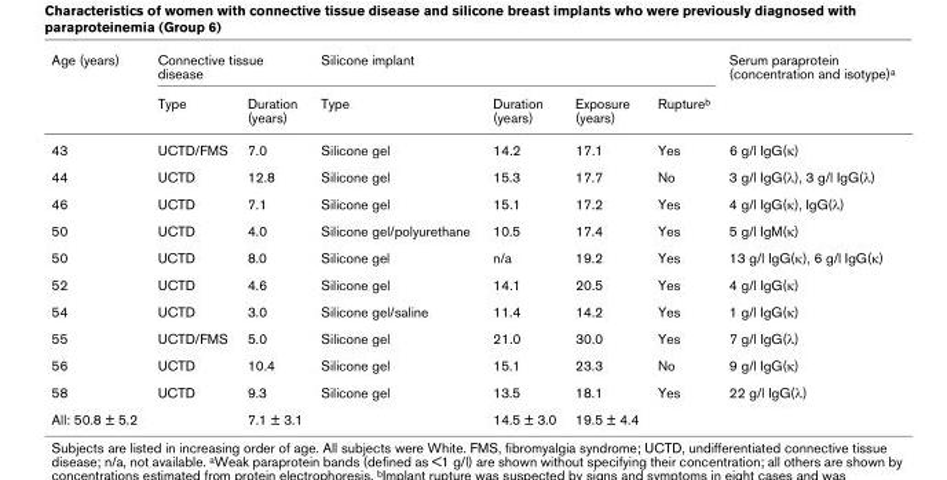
<table><thead><tr><td rowspan="2">Age (years)</td><td colspan="2">Connective tissue disease</td><td colspan="4">Silicone implant</td><td rowspan="2">Serum paraprotein (concentration and isotype)<sup>a</sup></td></tr><tr><td>Type</td><td>Duration (years)</td><td>Type</td><td>Duration (years)</td><td>Exposure (years)</td><td>Rupture<sup>b</sup></td></tr></thead><tbody><tr><td>43</td><td>UCTD/FMS</td><td>7.0</td><td>Silicone gel</td><td>14.2</td><td>17.1</td><td>Yes</td><td>6 g/l IgG(κ)</td></tr><tr><td>44</td><td>UCTD</td><td>12.8</td><td>Silicone gel</td><td>15.3</td><td>17.7</td><td>No</td><td>3 g/l IgG(λ), 3 g/l IgG(λ)</td></tr><tr><td>46</td><td>UCTD</td><td>7.1</td><td>Silicone gel</td><td>15.1</td><td>17.2</td><td>Yes</td><td>4 g/l IgG(κ), IgG(λ)</td></tr><tr><td>50</td><td>UCTD</td><td>4.0</td><td>Silicone gel/polyurethane</td><td>10.5</td><td>17.4</td><td>Yes</td><td>5 g/l IgM(κ)</td></tr><tr><td>50</td><td>UCTD</td><td>8.0</td><td>Silicone gel</td><td>n/a</td><td>19.2</td><td>Yes</td><td>13 g/l IgG(κ), 6 g/l IgG(κ)</td></tr><tr><td>52</td><td>UCTD</td><td>4.6</td><td>Silicone gel</td><td>14.1</td><td>20.5</td><td>Yes</td><td>4 g/l IgG(κ)</td></tr><tr><td>54</td><td>UCTD</td><td>3.0</td><td>Silicone gel/saline</td><td>11.4</td><td>14.2</td><td>Yes</td><td>1 g/l IgG(κ)</td></tr><tr><td>55</td><td>UCTD/FMS</td><td>5.0</td><td>Silicone gel</td><td>21.0</td><td>30.0</td><td>Yes</td><td>7 g/l IgG(λ)</td></tr><tr><td>56</td><td>UCTD</td><td>10.4</td><td>Silicone gel</td><td>15.1</td><td>23.3</td><td>No</td><td>9 g/l IgG(κ)</td></tr><tr><td>58</td><td>UCTD</td><td>9.3</td><td>Silicone gel</td><td>13.5</td><td>18.1</td><td>Yes</td><td>22 g/l IgG(λ)</td></tr><tr><td>All: 50.8 ± 5.2</td><td></td><td>7.1 ± 3.1</td><td></td><td>14.5 ± 3.0</td><td>19.5 ± 4.4</td><td></td><td></td></tr></tbody></table>